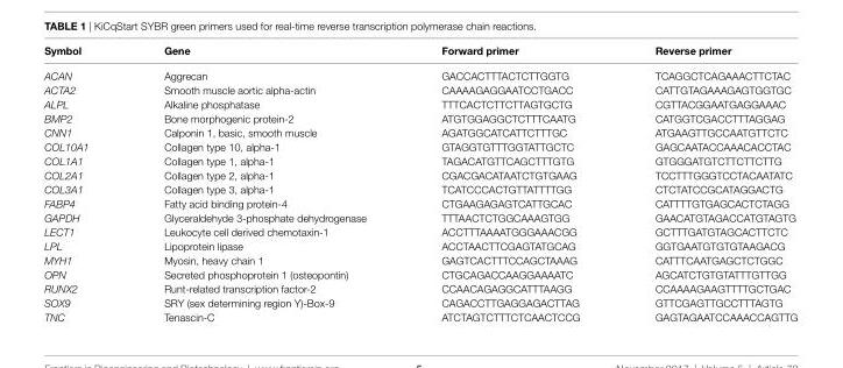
<table><thead><tr><td>symbol</td><td>gene</td><td>Forward primer</td><td>reverse primer</td></tr></thead><tbody><tr><td>ACAN</td><td>Aggrecan</td><td>GACCACTTTACTCTTGGTG</td><td>TCAGGCTCAGAAACTTCTAC</td></tr><tr><td>ACTA2</td><td>Smooth muscle aortic alpha-actin</td><td>CAAAAGAGGAATCCTGACC</td><td>CATTGTAGAAAGAGTGGTGC</td></tr><tr><td>ALPL</td><td>Alkaline phosphatase</td><td>TTTCACTCTTCTTAGTGCTG</td><td>CGTTACGGAATGAGGAAAC</td></tr><tr><td>BMP2</td><td>Bone morphogenic protein-2</td><td>ATGTGGAGGCTCTTTCAATG</td><td>CATGGTCGACCTTTAGGAG</td></tr><tr><td>CNN1</td><td>Calponin 1, basic, smooth muscle</td><td>AGATGGCATCATTCTTTGC</td><td>ATGAAGTTGCCAATGTTCTC</td></tr><tr><td>COL10A1</td><td>Collagen type 10, alpha-1</td><td>GTAGGTGTTTGGTATTGCTC</td><td>GAGCAATACCAAACACCTAC</td></tr><tr><td>COL1A1</td><td>Collagen type 1, alpha-1</td><td>TAGACATGTTCAGCTTTGTG</td><td>GTGGGATGTCTTCTTCTTG</td></tr><tr><td>COL2A1</td><td>Collagen type 2, alpha-1</td><td>CGACGACATAATCTGTGAAG</td><td>TCCTTTGGGTCCTACAATATC</td></tr><tr><td>COL3A1</td><td>Collagen type 3, alpha-1</td><td>TCATCCCACTGTTATTTTGG</td><td>CTCTATCCGCATAGGACTG</td></tr><tr><td>FABP4</td><td>Fatty acid binding protein-4</td><td>CTGAAGAGAGTCATTGCAC</td><td>CATTTTGTGAGCACTCTAGG</td></tr><tr><td>GAPDH</td><td>Glyceraldehyde 3-phosphate dehydrogenase</td><td>TTTAACTCTGGCAAAGTGG</td><td>GAACATGTAGACCATGTAGTG</td></tr><tr><td>LECT1</td><td>Leukocyte cell derived chemotaxin-1</td><td>ACCTTTAAAATGGGAAACGG</td><td>GCTTTGATGTAGCACTTCTC</td></tr><tr><td>LPL</td><td>Lipoprotein lipase</td><td>ACCTAACTTCGAGTATGCAG</td><td>GGTGAATGTGTGTAAGACG</td></tr><tr><td>MYH1</td><td>Myosin, heavy chain 1</td><td>GAGTCACTTTCCAGCTAAAG</td><td>CATTTCAATGAGCTCTGGC</td></tr><tr><td>OPN</td><td>Secreted phosphoprotein 1 (osteopontin)</td><td>CTGCAGACCAAGGAAAATC</td><td>AGCATCTGTGTATTTGTTGG</td></tr><tr><td>RUNX2</td><td>Runt-related transcription factor-2</td><td>CCAACAGAGGCATTTAAGG</td><td>CCAAAAGAAGTTTTGCTGAC</td></tr><tr><td>SOX9</td><td>SRY (sex determining region Y)-Box-9</td><td>CAGACCTTGAGGAGACTTAG</td><td>GTTCGAGTTGCCTTTAGTG</td></tr><tr><td>TNC</td><td>Tenascin-C</td><td>ATCTAGTCTTTCTCAACTCCG</td><td>GAGTAGAATCCAAACCAGTTG</td></tr></tbody></table>